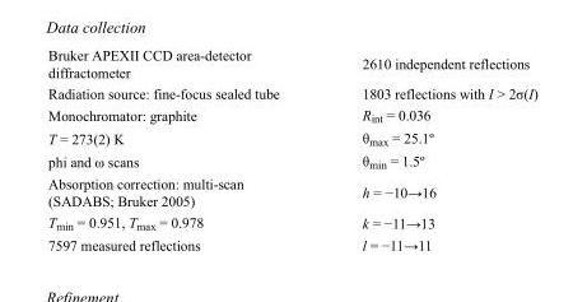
<table><tbody><tr><td>Bruker APEXII CCD area-detector diffractometer</td><td>2610 independent reflections</td></tr><tr><td>Radiation source: fine-focus sealed tube</td><td>1803 reflections with I &gt; 2σ(I)</td></tr><tr><td>Monochromator: graphite</td><td>R<sub>int</sub> = 0.036</td></tr><tr><td>T = 273(2) K</td><td>θ<sub>max</sub> = 25.1º</td></tr><tr><td>phi and ω scans</td><td>θ<sub>min</sub> = 1.5º</td></tr><tr><td>Absorption correction: multi-scan (SADABS; Bruker 2005)</td><td>h = −10→16</td></tr><tr><td>T<sub>min</sub> = 0.951, T<sub>max</sub> = 0.978</td><td>k = −11→13</td></tr><tr><td>7597 measured reflections</td><td>l = −11→11</td></tr></tbody></table>